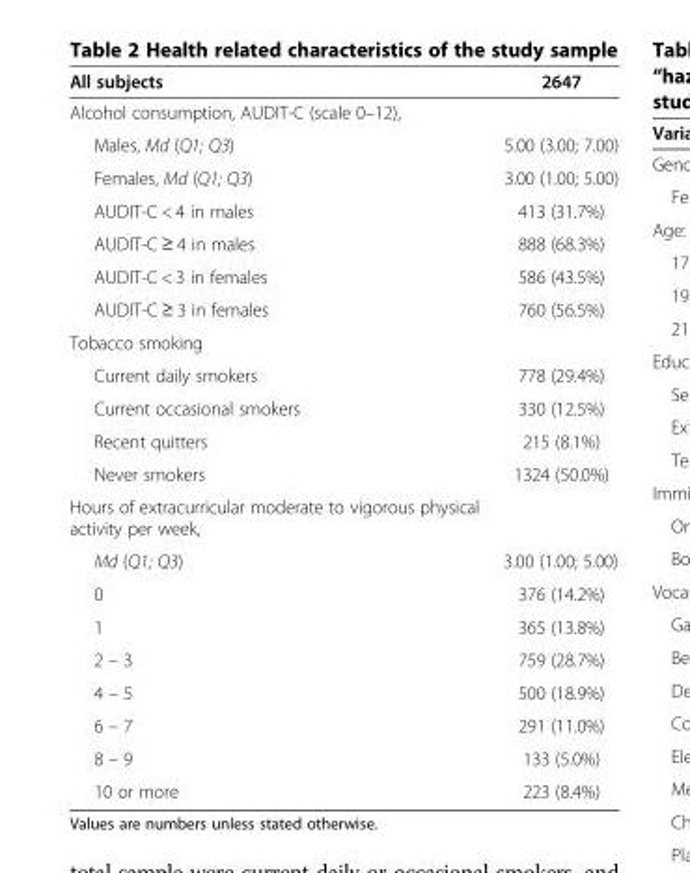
<table><thead><tr><td>All subjects</td><td>2647</td></tr></thead><tbody><tr><td colspan="2">Alcohol consumption, AUDIT-C (scale 0–12),</td></tr><tr><td>Males, Md (Q1; Q3)</td><td>5.00 (3.00; 7.00)</td></tr><tr><td>Females, Md (Q1; Q3)</td><td>3.00 (1.00; 5.00)</td></tr><tr><td>AUDIT-C &lt; 4 in males</td><td>413 (31.7%)</td></tr><tr><td>AUDIT-C ≥ 4 in males</td><td>888 (68.3%)</td></tr><tr><td>AUDIT-C &lt; 3 in females</td><td>586 (43.5%)</td></tr><tr><td>AUDIT-C ≥ 3 in females</td><td>760 (56.5%)</td></tr><tr><td colspan="2">Tobacco smoking</td></tr><tr><td>Current daily smokers</td><td>778 (29.4%)</td></tr><tr><td>Current occasional smokers</td><td>330 (12.5%)</td></tr><tr><td>Recent quitters</td><td>215 (8.1%)</td></tr><tr><td>Never smokers</td><td>1324 (50.0%)</td></tr><tr><td colspan="2">Hours of extracurricular moderate to vigorous physical activity per week,</td></tr><tr><td>Md (Q1; Q3)</td><td>3.00 (1.00; 5.00)</td></tr><tr><td>0</td><td>376 (14.2%)</td></tr><tr><td>1</td><td>365 (13.8%)</td></tr><tr><td>2 – 3</td><td>759 (28.7%)</td></tr><tr><td>4 – 5</td><td>500 (18.9%)</td></tr><tr><td>6 – 7</td><td>291 (11.0%)</td></tr><tr><td>8 – 9</td><td>133 (5.0%)</td></tr><tr><td>10 or more</td><td>223 (8.4%)</td></tr></tbody></table>